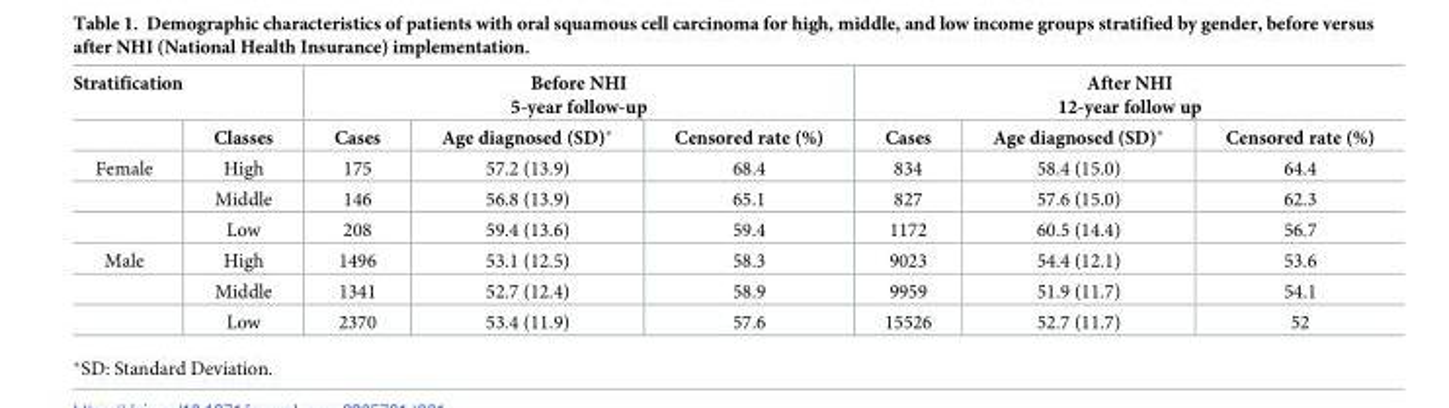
<table><thead><tr><td colspan="2">Stratification</td><td colspan="3">Before NHI 5-year follow-up</td><td colspan="3">After NHI 12-year follow up</td></tr><tr><td></td><td>Classes</td><td>Cases</td><td>Age diagnosed (SD)*</td><td>Censored rate (%)</td><td>Cases</td><td>Age diagnosed (SD)*</td><td>Censored rate (%)</td></tr></thead><tbody><tr><td rowspan="3">Female</td><td>High</td><td>175</td><td>57.2 (13.9)</td><td>68.4</td><td>834</td><td>58.4 (15.0)</td><td>64.4</td></tr><tr><td>Middle</td><td>146</td><td>56.8 (13.9)</td><td>65.1</td><td>827</td><td>57.6 (15.0)</td><td>62.3</td></tr><tr><td>Low</td><td>208</td><td>59.4 (13.6)</td><td>59.4</td><td>1172</td><td>60.5 (14.4)</td><td>56.7</td></tr><tr><td rowspan="3">Male</td><td>High</td><td>1496</td><td>53.1 (12.5)</td><td>58.3</td><td>9023</td><td>54.4 (12.1)</td><td>53.6</td></tr><tr><td>Middle</td><td>1341</td><td>52.7 (12.4)</td><td>58.9</td><td>9959</td><td>51.9 (11.7)</td><td>54.1</td></tr><tr><td>Low</td><td>2370</td><td>53.4 (11.9)</td><td>57.6</td><td>15526</td><td>52.7 (11.7)</td><td>52</td></tr></tbody></table>